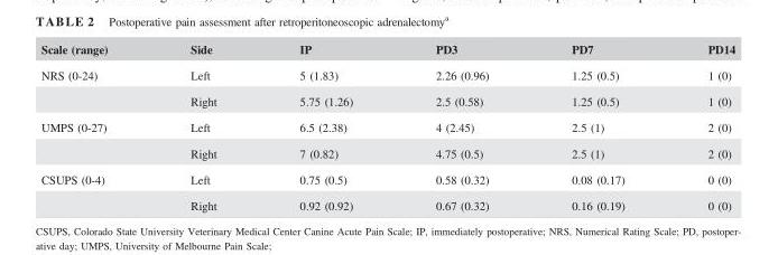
<table><thead><tr><td>Scale (range)</td><td>Side</td><td>IP</td><td>PD3</td><td>PD7</td><td>PD14</td></tr></thead><tbody><tr><td rowspan="2">NRS (0-24)</td><td>Left</td><td>5 (1.83)</td><td>2.26 (0.96)</td><td>1.25 (0.5)</td><td>1 (0)</td></tr><tr><td>Right</td><td>5.75 (1.26)</td><td>2.5 (0.58)</td><td>1.25 (0.5)</td><td>1 (0)</td></tr><tr><td rowspan="2">UMPS (0-27)</td><td>Left</td><td>6.5 (2.38)</td><td>4 (2.45)</td><td>2.5 (1)</td><td>2 (0)</td></tr><tr><td>Right</td><td>7 (0.82)</td><td>4.75 (0.5)</td><td>2.5 (1)</td><td>2 (0)</td></tr><tr><td rowspan="2">CSUPS (0-4)</td><td>Left</td><td>0.75 (0.5)</td><td>0.58 (0.32)</td><td>0.08 (0.17)</td><td>0 (0)</td></tr><tr><td>Right</td><td>0.92 (0.92)</td><td>0.67 (0.32)</td><td>0.16 (0.19)</td><td>0 (0)</td></tr></tbody></table>